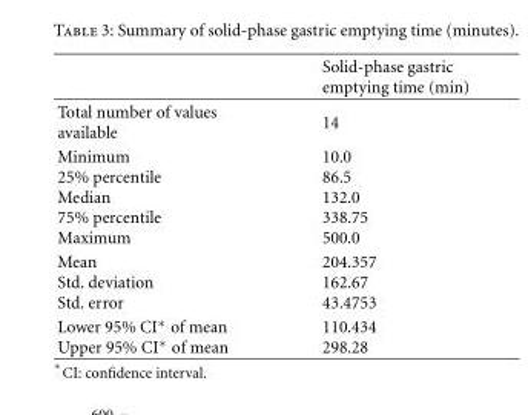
<table><thead><tr><td></td><td>Solid-phase gastric emptying time (min)</td></tr></thead><tbody><tr><td>Total number of values available</td><td>14</td></tr><tr><td>Minimum 25% percentile Median 75% percentile Maximum</td><td>10.0 86.5 132.0 338.75 500.0</td></tr><tr><td>Mean Std. deviation Std. error</td><td>204.357 162.67 43.4753</td></tr><tr><td>Lower 95% CI∗ of mean Upper 95% CI∗ of mean</td><td>110.434 298.28</td></tr></tbody></table>